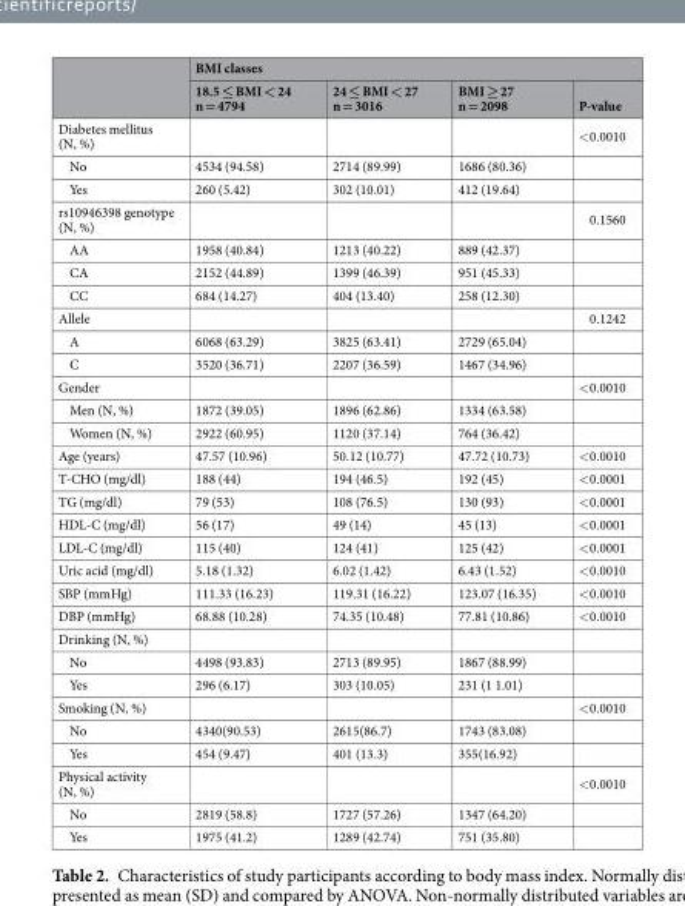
<table><thead><tr><td rowspan="2"></td><td colspan="4">BMI classes</td></tr><tr><td>18.5 ≤ BMI &lt; 24 n = 4794</td><td>24 ≤ BMI &lt; 27 n = 3016</td><td>BMI ≥ 27 n = 2098</td><td>P-value</td></tr></thead><tbody><tr><td>Diabetes mellitus (N, %)</td><td></td><td></td><td></td><td>&lt;0.0010</td></tr><tr><td>No</td><td>4534 (94.58)</td><td>2714 (89.99)</td><td>1686 (80.36)</td><td></td></tr><tr><td>Yes</td><td>260 (5.42)</td><td>302 (10.01)</td><td>412 (19.64)</td><td></td></tr><tr><td>rs10946398 genotype (N, %)</td><td></td><td></td><td></td><td>0.1560</td></tr><tr><td>AA</td><td>1958 (40.84)</td><td>1213 (40.22)</td><td>889 (42.37)</td><td></td></tr><tr><td>CA</td><td>2152 (44.89)</td><td>1399 (46.39)</td><td>951 (45.33)</td><td></td></tr><tr><td>CC</td><td>684 (14.27)</td><td>404 (13.40)</td><td>258 (12.30)</td><td></td></tr><tr><td>Allele</td><td></td><td></td><td></td><td>0.1242</td></tr><tr><td>A</td><td>6068 (63.29)</td><td>3825 (63.41)</td><td>2729 (65.04)</td><td></td></tr><tr><td>C</td><td>3520 (36.71)</td><td>2207 (36.59)</td><td>1467 (34.96)</td><td></td></tr><tr><td>Gender</td><td></td><td></td><td></td><td>&lt;0.0010</td></tr><tr><td>Men (N, %)</td><td>1872 (39.05)</td><td>1896 (62.86)</td><td>1334 (63.58)</td><td></td></tr><tr><td>Women (N, %)</td><td>2922 (60.95)</td><td>1120 (37.14)</td><td>764 (36.42)</td><td></td></tr><tr><td>Age (years)</td><td>47.57 (10.96)</td><td>50.12 (10.77)</td><td>47.72 (10.73)</td><td>&lt;0.0010</td></tr><tr><td>T-CHO (mg/dl)</td><td>188 (44)</td><td>194 (46.5)</td><td>192 (45)</td><td>&lt;0.0001</td></tr><tr><td>TG (mg/dl)</td><td>79 (53)</td><td>108 (76.5)</td><td>130 (93)</td><td>&lt;0.0001</td></tr><tr><td>HDL-C (mg/dl)</td><td>56 (17)</td><td>49 (14)</td><td>45 (13)</td><td>&lt;0.0001</td></tr><tr><td>LDL-C (mg/dl)</td><td>115 (40)</td><td>124 (41)</td><td>125 (42)</td><td>&lt;0.0001</td></tr><tr><td>Uric acid (mg/dl)</td><td>5.18 (1.32)</td><td>6.02 (1.42)</td><td>6.43 (1.52)</td><td>&lt;0.0010</td></tr><tr><td>SBP (mmHg)</td><td>111.33 (16.23)</td><td>119.31 (16.22)</td><td>123.07 (16.35)</td><td>&lt;0.0010</td></tr><tr><td>DBP (mmHg)</td><td>68.88 (10.28)</td><td>74.35 (10.48)</td><td>77.81 (10.86)</td><td>&lt;0.0010</td></tr><tr><td colspan="5">Drinking (N, %)</td></tr><tr><td>No</td><td>4498 (93.83)</td><td>2713 (89.95)</td><td>1867 (88.99)</td><td></td></tr><tr><td>Yes</td><td>296 (6.17)</td><td>303 (10.05)</td><td>231 (1 1.01)</td><td></td></tr><tr><td>Smoking (N, %)</td><td></td><td></td><td></td><td>&lt;0.0010</td></tr><tr><td>No</td><td>4340(90.53)</td><td>2615(86.7)</td><td>1743 (83.08)</td><td></td></tr><tr><td>Yes</td><td>454 (9.47)</td><td>401 (13.3)</td><td>355(16.92)</td><td></td></tr><tr><td>Physical activity (N, %)</td><td></td><td></td><td></td><td>&lt;0.0010</td></tr><tr><td>No</td><td>2819 (58.8)</td><td>1727 (57.26)</td><td>1347 (64.20)</td><td></td></tr><tr><td>Yes</td><td>1975 (41.2)</td><td>1289 (42.74)</td><td>751 (35.80)</td><td></td></tr></tbody></table>